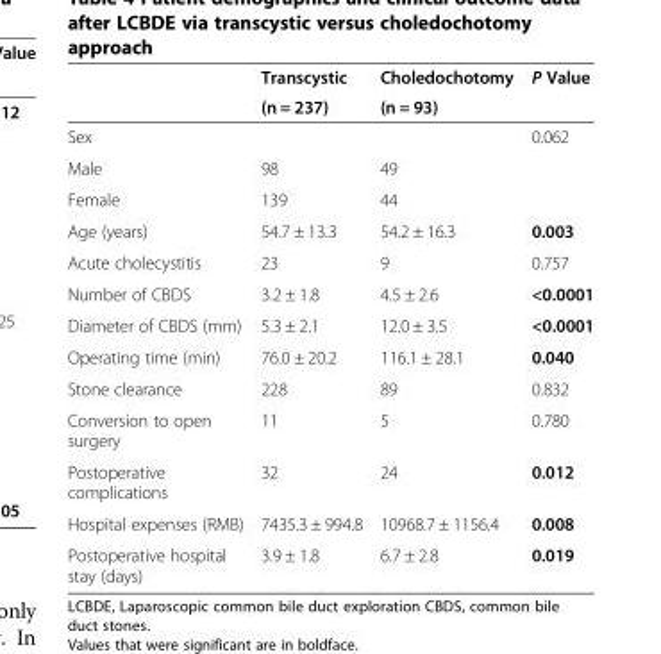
<table><thead><tr><td rowspan="2"></td><td rowspan="2">Transcystic (n = 237)</td><td rowspan="2">Choledochotomy (n = 93)</td><td rowspan="2">P Value</td></tr><tr></tr></thead><tbody><tr><td>Sex</td><td></td><td></td><td>0.062</td></tr><tr><td>Male</td><td>98</td><td>49</td><td></td></tr><tr><td>Female</td><td>139</td><td>44</td><td></td></tr><tr><td>Age (years)</td><td>54.7 ± 13.3</td><td>54.2 ± 16.3</td><td>0.003</td></tr><tr><td>Acute cholecystitis</td><td>23</td><td>9</td><td>0.757</td></tr><tr><td>Number of CBDS</td><td>3.2 ± 1.8</td><td>4.5 ± 2.6</td><td>&lt;0.0001</td></tr><tr><td>Diameter of CBDS (mm)</td><td>5.3 ± 2.1</td><td>12.0 ± 3.5</td><td>&lt;0.0001</td></tr><tr><td>Operating time (min)</td><td>76.0 ± 20.2</td><td>116.1 ± 28.1</td><td>0.040</td></tr><tr><td>Stone clearance</td><td>228</td><td>89</td><td>0.832</td></tr><tr><td>Conversion to open surgery</td><td>11</td><td>5</td><td>0.780</td></tr><tr><td>Postoperative complications</td><td>32</td><td>24</td><td>0.012</td></tr><tr><td>Hospital expenses (RMB)</td><td>7435.3 ± 994.8</td><td>10968.7 ± 1156.4</td><td>0.008</td></tr><tr><td>Postoperative hospital stay (days)</td><td>3.9 ± 1.8</td><td>6.7 ± 2.8</td><td>0.019</td></tr></tbody></table>